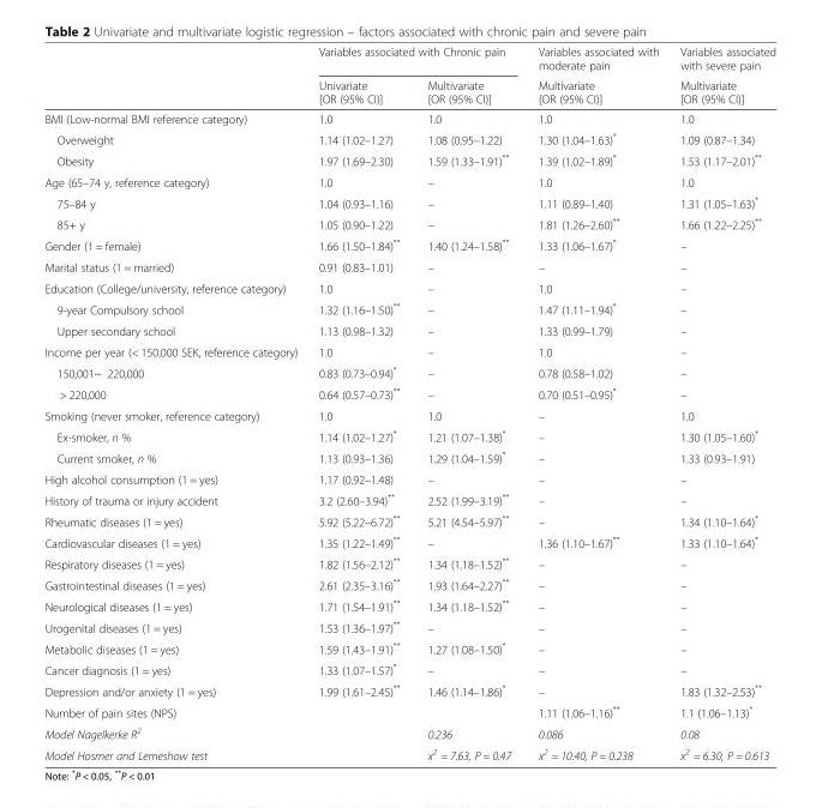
<table><thead><tr><td rowspan="2"></td><td colspan="2">Variables associated with Chronic pain</td><td rowspan="2">Variables associated with moderate pain Multivariate [OR (95% CI)]</td><td rowspan="2">Variables associated with severe pain Multivariate [OR (95% CI)]</td></tr><tr><td>Univariate [OR (95% CI)]</td><td>Multivariate [OR (95% CI)]</td></tr></thead><tbody><tr><td>BMI (Low-normal BMI reference category)</td><td>1.0</td><td>1.0</td><td>1.0</td><td>1.0</td></tr><tr><td>Overweight</td><td>1.14 (1.02–1.27)</td><td>1.08 (0.95–1.22)</td><td>1.30 (1.04–1.63)*</td><td>1.09 (0.87–1.34)</td></tr><tr><td>Obesity</td><td>1.97 (1.69–2.30)</td><td>1.59 (1.33–1.91)**</td><td>1.39 (1.02–1.89)*</td><td>1.53 (1.17–2.01)**</td></tr><tr><td>Age (65–74 y, reference category)</td><td>1.0</td><td>–</td><td>1.0</td><td>1.0</td></tr><tr><td>75–84 y</td><td>1.04 (0.93–1.16)</td><td>–</td><td>1.11 (0.89–1.40)</td><td>1.31 (1.05–1.63)*</td></tr><tr><td>85+ y</td><td>1.05 (0.90–1.22)</td><td>–</td><td>1.81 (1.26–2.60)**</td><td>1.66 (1.22–2.25)**</td></tr><tr><td>Gender (1 = female)</td><td>1.66 (1.50–1.84)**</td><td>1.40 (1.24–1.58)**</td><td>1.33 (1.06–1.67)*</td><td>–</td></tr><tr><td>Marital status (1 = married)</td><td>0.91 (0.83–1.01)</td><td>–</td><td>–</td><td>–</td></tr><tr><td>Education (College/university, reference category)</td><td>1.0</td><td>–</td><td>1.0</td><td>–</td></tr><tr><td>9-year Compulsory school</td><td>1.32 (1.16–1.50)**</td><td>–</td><td>1.47 (1.11–1.94)*</td><td>–</td></tr><tr><td>Upper secondary school</td><td>1.13 (0.98–1.32)</td><td>–</td><td>1.33 (0.99–1.79)</td><td>–</td></tr><tr><td>Income per year (&lt; 150,000 SEK, reference category)</td><td>1.0</td><td>–</td><td>1.0</td><td>–</td></tr><tr><td>150,001~ 220,000</td><td>0.83 (0.73–0.94)*</td><td>–</td><td>0.78 (0.58–1.02)</td><td>–</td></tr><tr><td>&gt; 220,000</td><td>0.64 (0.57–0.73)**</td><td>–</td><td>0.70 (0.51–0.95)*</td><td>–</td></tr><tr><td>Smoking (never smoker, reference category)</td><td>1.0</td><td>1.0</td><td>–</td><td>1.0</td></tr><tr><td>Ex-smoker, n %</td><td>1.14 (1.02–1.27)*</td><td>1.21 (1.07–1.38)*</td><td>–</td><td>1.30 (1.05–1.60)*</td></tr><tr><td>Current smoker, n %</td><td>1.13 (0.93–1.36)</td><td>1.29 (1.04–1.59)*</td><td>–</td><td>1.33 (0.93–1.91)</td></tr><tr><td>High alcohol consumption (1 = yes)</td><td>1.17 (0.92–1.48)</td><td>–</td><td>–</td><td>–</td></tr><tr><td>History of trauma or injury accident</td><td>3.2 (2.60–3.94)**</td><td>2.52 (1.99–3.19)**</td><td>–</td><td>–</td></tr><tr><td>Rheumatic diseases (1 = yes)</td><td>5.92 (5.22–6.72)**</td><td>5.21 (4.54–5.97)**</td><td>–</td><td>1.34 (1.10–1.64)*</td></tr><tr><td>Cardiovascular diseases (1 = yes)</td><td>1.35 (1.22–1.49)**</td><td>–</td><td>1.36 (1.10–1.67)**</td><td>1.33 (1.10–1.64)*</td></tr><tr><td>Respiratory diseases (1 = yes)</td><td>1.82 (1.56–2.12)**</td><td>1.34 (1.18–1.52)**</td><td>–</td><td>–</td></tr><tr><td>Gastrointestinal diseases (1 = yes)</td><td>2.61 (2.35–3.16)**</td><td>1.93 (1.64–2.27)**</td><td>–</td><td>–</td></tr><tr><td>Neurological diseases (1 = yes)</td><td>1.71 (1.54–1.91)**</td><td>1.34 (1.18–1.52)**</td><td>–</td><td>–</td></tr><tr><td>Urogenital diseases (1 = yes)</td><td>1.53 (1.36–1.97)**</td><td>–</td><td>–</td><td>–</td></tr><tr><td>Metabolic diseases (1 = yes)</td><td>1.59 (1.43–1.91)**</td><td>1.27 (1.08–1.50)*</td><td>–</td><td>–</td></tr><tr><td>Cancer diagnosis (1 = yes)</td><td>1.33 (1.07–1.57)*</td><td>–</td><td>–</td><td>–</td></tr><tr><td>Depression and/or anxiety (1 = yes)</td><td>1.99 (1.61–2.45)**</td><td>1.46 (1.14–1.86)*</td><td>–</td><td>1.83 (1.32–2.53)**</td></tr><tr><td>Number of pain sites (NPS)</td><td></td><td></td><td>1.11 (1.06–1.16)**</td><td>1.1 (1.06–1.13)*</td></tr><tr><td>Model Nagelkerke R<sup>2</sup></td><td></td><td>0.236</td><td>0.086</td><td>0.08</td></tr><tr><td>Model Hosmer and Lemeshow test</td><td></td><td>x<sup>2</sup> = 7.63, P = 0.47</td><td>x<sup>2</sup> = 10.40, P = 0.238</td><td>x<sup>2</sup> = 6.30, P = 0.613</td></tr></tbody></table>